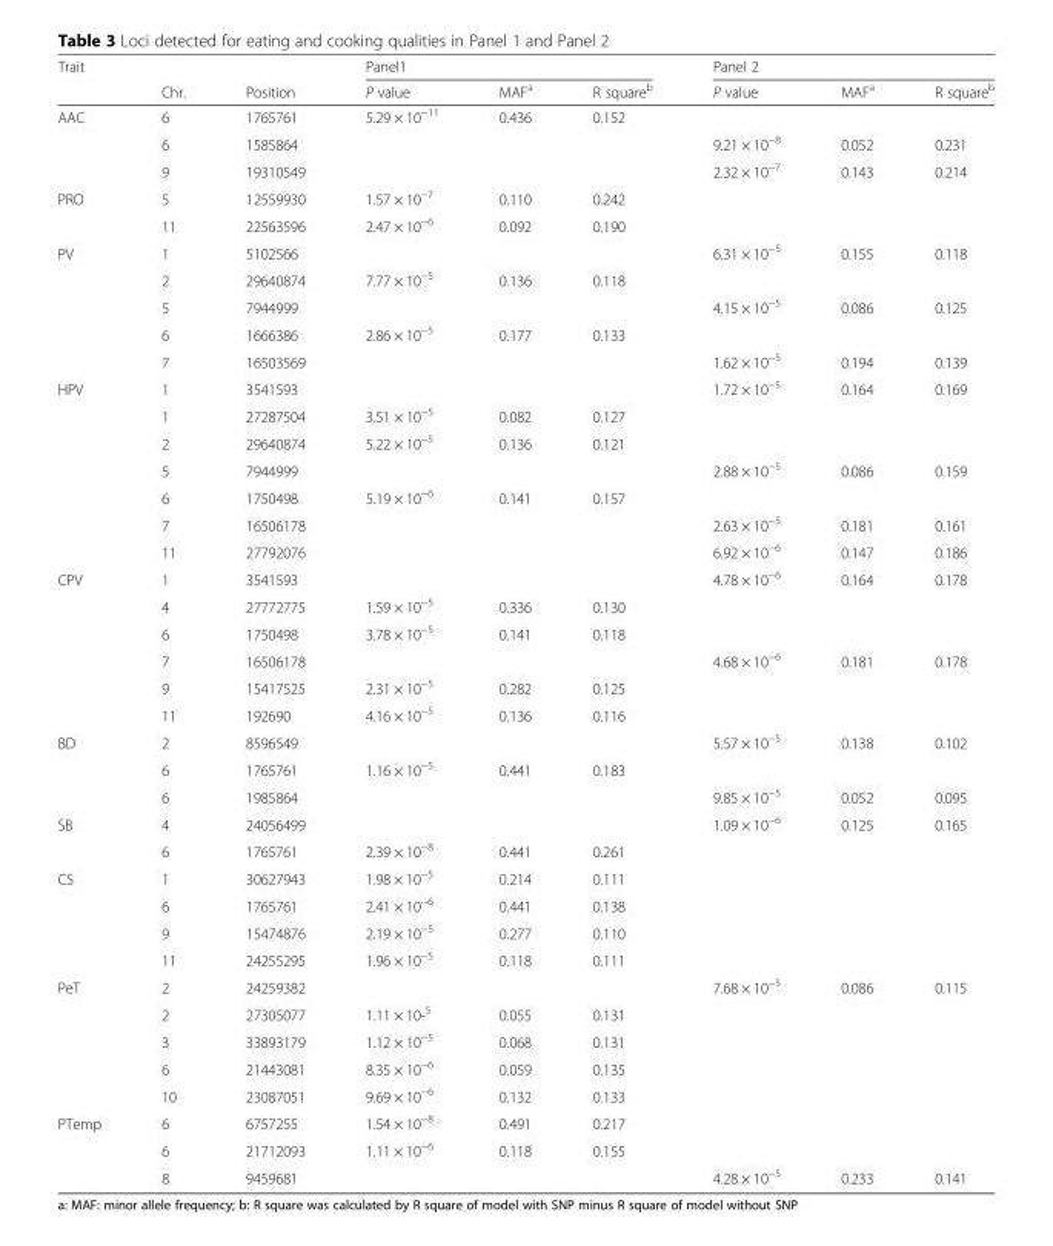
<table><thead><tr><td rowspan="2">Trait</td><td rowspan="2">Chr.</td><td rowspan="2">Position</td><td colspan="3">Panel1</td><td colspan="3">Panel 2</td></tr><tr><td>P value</td><td>MAF<sup>a</sup></td><td>R square<sup>b</sup></td><td>P value</td><td>MAF<sup>a</sup></td><td>R square<sup>b</sup></td></tr></thead><tbody><tr><td rowspan="3">AAC</td><td>6</td><td>1765761</td><td>5.29 × 10<sup>−11</sup></td><td>0.436</td><td>0.152</td><td></td><td></td><td></td></tr><tr><td>6</td><td>1585864</td><td></td><td></td><td></td><td>9.21 × 10<sup>−8</sup></td><td>0.052</td><td>0.231</td></tr><tr><td>9</td><td>19310549</td><td></td><td></td><td></td><td>2.32 × 10<sup>−7</sup></td><td>0.143</td><td>0.214</td></tr><tr><td rowspan="2">PRO</td><td>5</td><td>12559930</td><td>1.57 × 10<sup>−7</sup></td><td>0.110</td><td>0.242</td><td></td><td></td><td></td></tr><tr><td>11</td><td>22563596</td><td>2.47 × 10<sup>−6</sup></td><td>0.092</td><td>0.190</td><td></td><td></td><td></td></tr><tr><td rowspan="5">PV</td><td>1</td><td>5102566</td><td></td><td></td><td></td><td>6.31 × 10<sup>−5</sup></td><td>0.155</td><td>0.118</td></tr><tr><td>2</td><td>29640874</td><td>7.77 × 10<sup>−5</sup></td><td>0.136</td><td>0.118</td><td></td><td></td><td></td></tr><tr><td>5</td><td>7944999</td><td></td><td></td><td></td><td>4.15 × 10<sup>−5</sup></td><td>0.086</td><td>0.125</td></tr><tr><td>6</td><td>1666386</td><td>2.86 × 10<sup>−5</sup></td><td>0.177</td><td>0.133</td><td></td><td></td><td></td></tr><tr><td>7</td><td>16503569</td><td></td><td></td><td></td><td>1.62 × 10<sup>−5</sup></td><td>0.194</td><td>0.139</td></tr><tr><td rowspan="7">HPV</td><td>1</td><td>3541593</td><td></td><td></td><td></td><td>1.72 × 10<sup>−5</sup></td><td>0.164</td><td>0.169</td></tr><tr><td>1</td><td>27287504</td><td>3.51 × 10<sup>−5</sup></td><td>0.082</td><td>0.127</td><td></td><td></td><td></td></tr><tr><td>2</td><td>29640874</td><td>5.22 × 10<sup>−5</sup></td><td>0.136</td><td>0.121</td><td></td><td></td><td></td></tr><tr><td>5</td><td>7944999</td><td></td><td></td><td></td><td>2.88 × 10<sup>−5</sup></td><td>0.086</td><td>0.159</td></tr><tr><td>6</td><td>1750498</td><td>5.19 × 10<sup>−6</sup></td><td>0.141</td><td>0.157</td><td></td><td></td><td></td></tr><tr><td>7</td><td>16506178</td><td></td><td></td><td></td><td>2.63 × 10<sup>−5</sup></td><td>0.181</td><td>0.161</td></tr><tr><td>11</td><td>27792076</td><td></td><td></td><td></td><td>6.92 × 10<sup>−6</sup></td><td>0.147</td><td>0.186</td></tr><tr><td rowspan="6">CPV</td><td>1</td><td>3541593</td><td></td><td></td><td></td><td>4.78 × 10<sup>−6</sup></td><td>0.164</td><td>0.178</td></tr><tr><td>4</td><td>27772775</td><td>1.59 × 10<sup>−5</sup></td><td>0.336</td><td>0.130</td><td></td><td></td><td></td></tr><tr><td>6</td><td>1750498</td><td>3.78 × 10<sup>−5</sup></td><td>0.141</td><td>0.118</td><td></td><td></td><td></td></tr><tr><td>7</td><td>16506178</td><td></td><td></td><td></td><td>4.68 × 10<sup>−6</sup></td><td>0.181</td><td>0.178</td></tr><tr><td>9</td><td>15417525</td><td>2.31 × 10<sup>−5</sup></td><td>0.282</td><td>0.125</td><td></td><td></td><td></td></tr><tr><td>11</td><td>192690</td><td>4.16 × 10<sup>−5</sup></td><td>0.136</td><td>0.116</td><td></td><td></td><td></td></tr><tr><td rowspan="3">BD</td><td>2</td><td>8596549</td><td></td><td></td><td></td><td>5.57 × 10<sup>−5</sup></td><td>0.138</td><td>0.102</td></tr><tr><td>6</td><td>1765761</td><td>1.16 × 10<sup>−5</sup></td><td>0.441</td><td>0.183</td><td></td><td></td><td></td></tr><tr><td>6</td><td>1985864</td><td></td><td></td><td></td><td>9.85 × 10<sup>−5</sup></td><td>0.052</td><td>0.095</td></tr><tr><td rowspan="2">SB</td><td>4</td><td>24056499</td><td></td><td></td><td></td><td>1.09 × 10<sup>−6</sup></td><td>0.125</td><td>0.165</td></tr><tr><td>6</td><td>1765761</td><td>2.39 × 10<sup>−8</sup></td><td>0.441</td><td>0.261</td><td></td><td></td><td></td></tr><tr><td rowspan="4">CS</td><td>1</td><td>30627943</td><td>1.98 × 10<sup>−5</sup></td><td>0.214</td><td>0.111</td><td></td><td></td><td></td></tr><tr><td>6</td><td>1765761</td><td>2.41 × 10<sup>−6</sup></td><td>0.441</td><td>0.138</td><td></td><td></td><td></td></tr><tr><td>9</td><td>15474876</td><td>2.19 × 10<sup>−5</sup></td><td>0.277</td><td>0.110</td><td></td><td></td><td></td></tr><tr><td>11</td><td>24255295</td><td>1.96 × 10<sup>−5</sup></td><td>0.118</td><td>0.111</td><td></td><td></td><td></td></tr><tr><td rowspan="5">PeT</td><td>2</td><td>24259382</td><td></td><td></td><td></td><td>7.68 × 10<sup>−5</sup></td><td>0.086</td><td>0.115</td></tr><tr><td>2</td><td>27305077</td><td>1.11 × 10-<sup>5</sup></td><td>0.055</td><td>0.131</td><td></td><td></td><td></td></tr><tr><td>3</td><td>33893179</td><td>1.12 × 10<sup>−5</sup></td><td>0.068</td><td>0.131</td><td></td><td></td><td></td></tr><tr><td>6</td><td>21443081</td><td>8.35 × 10<sup>−6</sup></td><td>0.059</td><td>0.135</td><td></td><td></td><td></td></tr><tr><td>10</td><td>23087051</td><td>9.69 × 10<sup>−6</sup></td><td>0.132</td><td>0.133</td><td></td><td></td><td></td></tr><tr><td rowspan="3">PTemp</td><td>6</td><td>6757255</td><td>1.54 × 10<sup>−8</sup></td><td>0.491</td><td>0.217</td><td></td><td></td><td></td></tr><tr><td>6</td><td>21712093</td><td>1.11 × 10<sup>−6</sup></td><td>0.118</td><td>0.155</td><td></td><td></td><td></td></tr><tr><td>8</td><td>9459681</td><td></td><td></td><td></td><td>4.28 × 10<sup>−5</sup></td><td>0.233</td><td>0.141</td></tr></tbody></table>